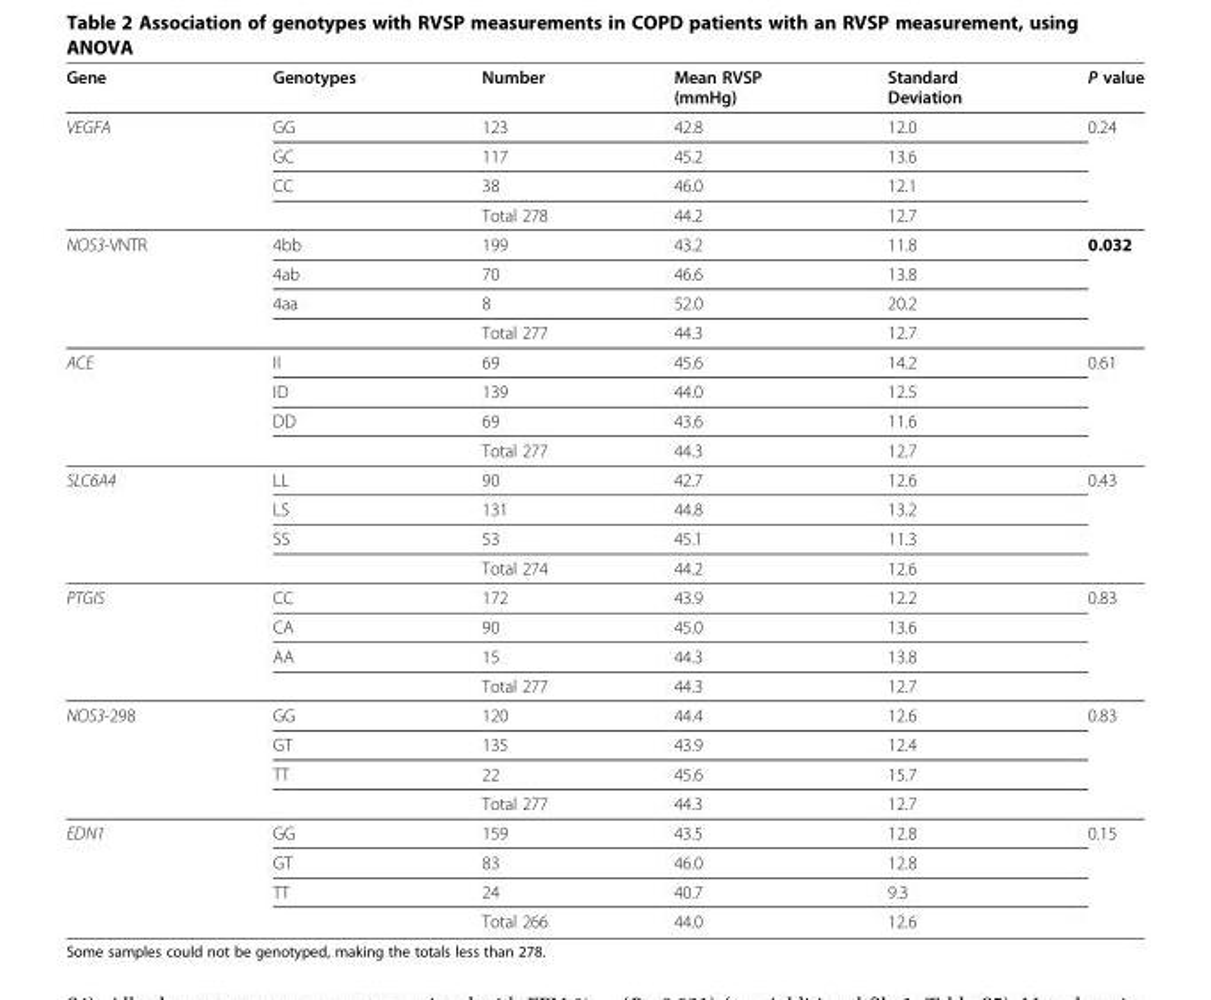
<table><thead><tr><td>Gene</td><td>Genotypes</td><td>Number</td><td>Mean RVSP (mmHg)</td><td>Standard Deviation</td><td>P value</td></tr></thead><tbody><tr><td rowspan="4">VEGFA</td><td>GG</td><td>123</td><td>42.8</td><td>12.0</td><td>0.24</td></tr><tr><td>GC</td><td>117</td><td>45.2</td><td>13.6</td><td></td></tr><tr><td>CC</td><td>38</td><td>46.0</td><td>12.1</td><td></td></tr><tr><td></td><td>Total 278</td><td>44.2</td><td>12.7</td><td></td></tr><tr><td rowspan="4">NOS3-VNTR</td><td>4bb</td><td>199</td><td>43.2</td><td>11.8</td><td>0.032</td></tr><tr><td>4ab</td><td>70</td><td>46.6</td><td>13.8</td><td></td></tr><tr><td>4aa</td><td>8</td><td>52.0</td><td>20.2</td><td></td></tr><tr><td></td><td>Total 277</td><td>44.3</td><td>12.7</td><td></td></tr><tr><td rowspan="4">ACE</td><td>II</td><td>69</td><td>45.6</td><td>14.2</td><td>0.61</td></tr><tr><td>ID</td><td>139</td><td>44.0</td><td>12.5</td><td></td></tr><tr><td>DD</td><td>69</td><td>43.6</td><td>11.6</td><td></td></tr><tr><td></td><td>Total 277</td><td>44.3</td><td>12.7</td><td></td></tr><tr><td rowspan="4">SLC6A4</td><td>LL</td><td>90</td><td>42.7</td><td>12.6</td><td>0.43</td></tr><tr><td>LS</td><td>131</td><td>44.8</td><td>13.2</td><td></td></tr><tr><td>SS</td><td>53</td><td>45.1</td><td>11.3</td><td></td></tr><tr><td></td><td>Total 274</td><td>44.2</td><td>12.6</td><td></td></tr><tr><td rowspan="4">PTGIS</td><td>CC</td><td>172</td><td>43.9</td><td>12.2</td><td>0.83</td></tr><tr><td>CA</td><td>90</td><td>45.0</td><td>13.6</td><td></td></tr><tr><td>AA</td><td>15</td><td>44.3</td><td>13.8</td><td></td></tr><tr><td></td><td>Total 277</td><td>44.3</td><td>12.7</td><td></td></tr><tr><td rowspan="4">NOS3-298</td><td>GG</td><td>120</td><td>44.4</td><td>12.6</td><td>0.83</td></tr><tr><td>GT</td><td>135</td><td>43.9</td><td>12.4</td><td></td></tr><tr><td>TT</td><td>22</td><td>45.6</td><td>15.7</td><td></td></tr><tr><td></td><td>Total 277</td><td>44.3</td><td>12.7</td><td></td></tr><tr><td rowspan="4">EDN1</td><td>GG</td><td>159</td><td>43.5</td><td>12.8</td><td>0.15</td></tr><tr><td>GT</td><td>83</td><td>46.0</td><td>12.8</td><td></td></tr><tr><td>TT</td><td>24</td><td>40.7</td><td>9.3</td><td></td></tr><tr><td></td><td>Total 266</td><td>44.0</td><td>12.6</td><td></td></tr></tbody></table>